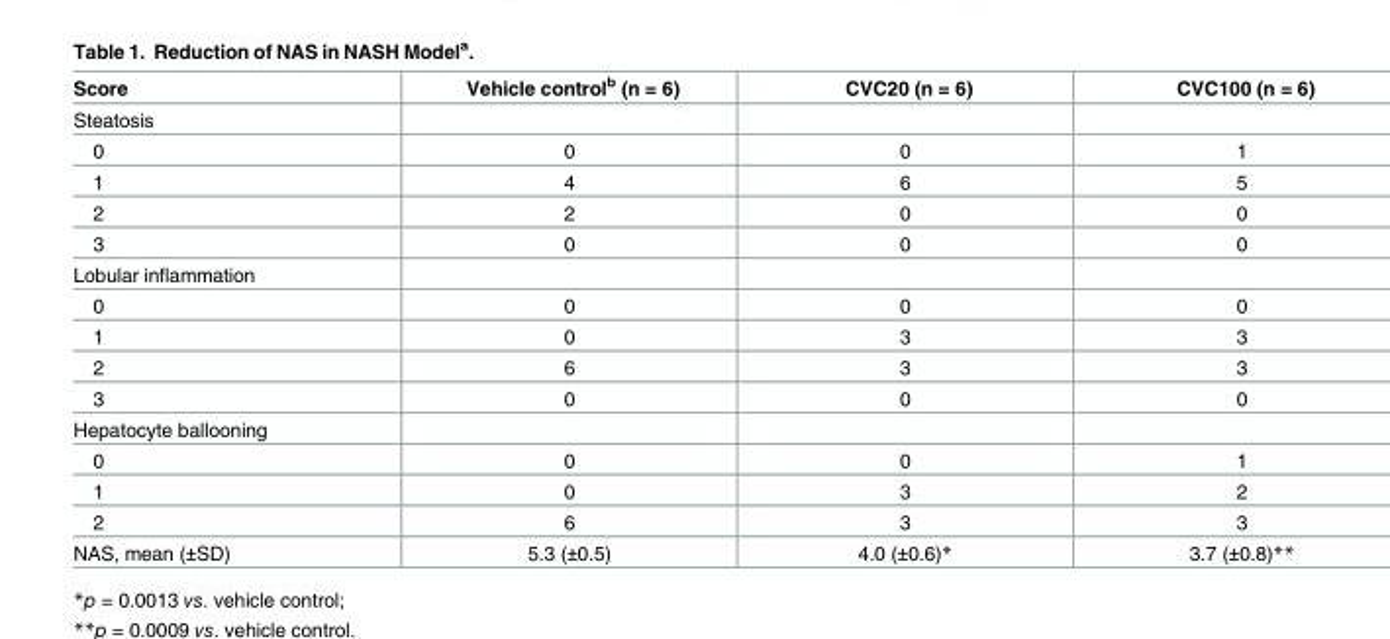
<table><thead><tr><td>Score</td><td>Vehicle control<sup>b</sup> (n = 6)</td><td>CVC20 (n = 6)</td><td>CVC100 (n = 6)</td></tr></thead><tbody><tr><td colspan="4">Steatosis</td></tr><tr><td>0</td><td>0</td><td>0</td><td>1</td></tr><tr><td>1</td><td>4</td><td>6</td><td>5</td></tr><tr><td>2</td><td>2</td><td>0</td><td>0</td></tr><tr><td>3</td><td>0</td><td>0</td><td>0</td></tr><tr><td colspan="4">Lobular inflammation</td></tr><tr><td>0</td><td>0</td><td>0</td><td>0</td></tr><tr><td>1</td><td>0</td><td>3</td><td>3</td></tr><tr><td>2</td><td>6</td><td>3</td><td>3</td></tr><tr><td>3</td><td>0</td><td>0</td><td>0</td></tr><tr><td colspan="4">Hepatocyte ballooning</td></tr><tr><td>0</td><td>0</td><td>0</td><td>1</td></tr><tr><td>1</td><td>0</td><td>3</td><td>2</td></tr><tr><td>2</td><td>6</td><td>3</td><td>3</td></tr><tr><td>NAS, mean (±SD)</td><td>5.3 (±0.5)</td><td>4.0 (±0.6)*</td><td>3.7 (±0.8)**</td></tr></tbody></table>